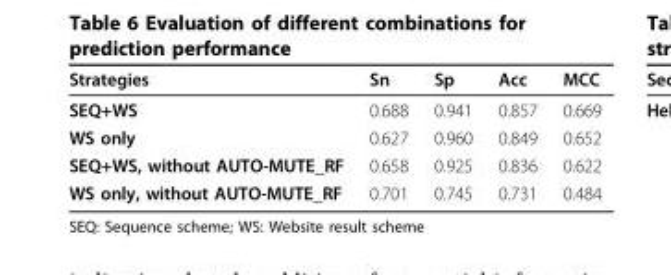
<table><thead><tr><td>Strategies</td><td>Sn</td><td>Sp</td><td>Acc</td><td>MCC</td></tr></thead><tbody><tr><td>SEQ+WS</td><td>0.688</td><td>0.941</td><td>0.857</td><td>0.669</td></tr><tr><td>WS only</td><td>0.627</td><td>0.960</td><td>0.849</td><td>0.652</td></tr><tr><td>SEQ+WS, without AUTO-MUTE_RF</td><td>0.658</td><td>0.925</td><td>0.836</td><td>0.622</td></tr><tr><td>WS only, without AUTO-MUTE_RF</td><td>0.701</td><td>0.745</td><td>0.731</td><td>0.484</td></tr></tbody></table>